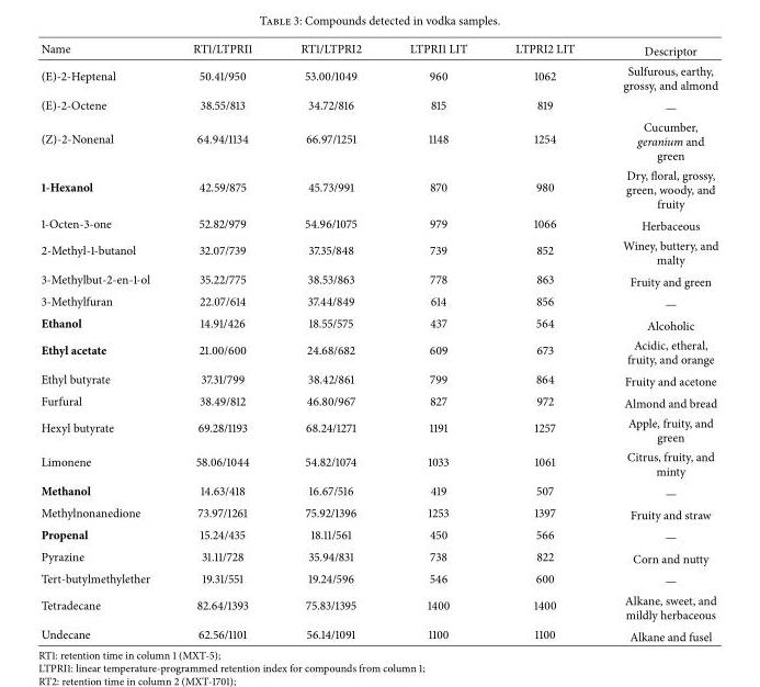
<table><thead><tr><td>Name</td><td>RT1/LTPRI1</td><td>RT1/LTPRI2</td><td>LTPRI1 LIT</td><td>LTPRI2 LIT</td><td>Descriptor</td></tr></thead><tbody><tr><td>(E)-2-Heptenal</td><td>50.41/950</td><td>53.00/1049</td><td>960</td><td>1062</td><td>Sulfurous, earthy, grossy, and almond</td></tr><tr><td>(E)-2-Octene</td><td>38.55/813</td><td>34.72/816</td><td>815</td><td>819</td><td>—</td></tr><tr><td>(Z)-2-Nonenal</td><td>64.94/1134</td><td>66.97/1251</td><td>1148</td><td>1254</td><td>Cucumber, geranium and green</td></tr><tr><td>1-Hexanol</td><td>42.59/875</td><td>45.73/991</td><td>870</td><td>980</td><td>Dry, floral, grossy, green, woody, and fruity</td></tr><tr><td>1-Octen-3-one</td><td>52.82/979</td><td>54.96/1075</td><td>979</td><td>1066</td><td>Herbaceous</td></tr><tr><td>2-Methyl-1-butanol</td><td>32.07/739</td><td>37.35/848</td><td>739</td><td>852</td><td>Winey, buttery, and malty</td></tr><tr><td>3-Methylbut-2-en-1-ol</td><td>35.22/775</td><td>38.53/863</td><td>778</td><td>863</td><td>Fruity and green</td></tr><tr><td>3-Methylfuran</td><td>22.07/614</td><td>37.44/849</td><td>614</td><td>856</td><td>—</td></tr><tr><td>Ethanol</td><td>14.91/426</td><td>18.55/575</td><td>437</td><td>564</td><td>Alcoholic</td></tr><tr><td>Ethyl acetate</td><td>21.00/600</td><td>24.68/682</td><td>609</td><td>673</td><td>Acidic, etheral, fruity, and orange</td></tr><tr><td>Ethyl butyrate</td><td>37.31/799</td><td>38.42/861</td><td>799</td><td>864</td><td>Fruity and acetone</td></tr><tr><td>Furfural</td><td>38.49/812</td><td>46.80/967</td><td>827</td><td>972</td><td>Almond and bread</td></tr><tr><td>Hexyl butyrate</td><td>69.28/1193</td><td>68.24/1271</td><td>1191</td><td>1257</td><td>Apple, fruity, and green</td></tr><tr><td>Limonene</td><td>58.06/1044</td><td>54.82/1074</td><td>1033</td><td>1061</td><td>Citrus, fruity, and minty</td></tr><tr><td>Methanol</td><td>14.63/418</td><td>16.67/516</td><td>419</td><td>507</td><td>—</td></tr><tr><td>Methylnonanedione</td><td>73.97/1261</td><td>75.92/1396</td><td>1253</td><td>1397</td><td>Fruity and straw</td></tr><tr><td>Propenal</td><td>15.24/435</td><td>18.11/561</td><td>450</td><td>566</td><td>—</td></tr><tr><td>Pyrazine</td><td>31.11/728</td><td>35.94/831</td><td>738</td><td>822</td><td>Corn and nutty</td></tr><tr><td>Tert-butylmethylether</td><td>19.31/551</td><td>19.24/596</td><td>546</td><td>600</td><td>—</td></tr><tr><td>Tetradecane</td><td>82.64/1393</td><td>75.83/1395</td><td>1400</td><td>1400</td><td>Alkane, sweet, and mildly herbaceous</td></tr><tr><td>Undecane</td><td>62.56/1101</td><td>56.14/1091</td><td>1100</td><td>1100</td><td>Alkane and fusel</td></tr></tbody></table>